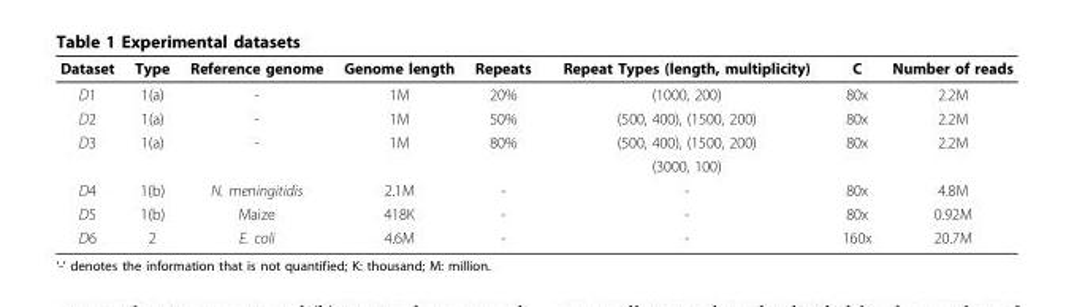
<table><thead><tr><td>Dataset</td><td>Type</td><td>Reference genome</td><td>Genome length</td><td>Repeats</td><td>Repeat Types (length, multiplicity)</td><td>C</td><td>Number of reads</td></tr></thead><tbody><tr><td>D1</td><td>1(a)</td><td>-</td><td>1M</td><td>20%</td><td>(1000, 200)</td><td>80x</td><td>2.2M</td></tr><tr><td>D2</td><td>1(a)</td><td>-</td><td>1M</td><td>50%</td><td>(500, 400), (1500, 200)</td><td>80x</td><td>2.2M</td></tr><tr><td rowspan="2">D3</td><td>1(a)</td><td>-</td><td>1M</td><td>80%</td><td>(500, 400), (1500, 200)</td><td>80x</td><td>2.2M</td></tr><tr><td></td><td></td><td></td><td></td><td>(3000, 100)</td><td></td><td></td></tr><tr><td>D4</td><td>1(b)</td><td>N. meningitidis</td><td>2.1M</td><td>-</td><td>-</td><td>80x</td><td>4.8M</td></tr><tr><td>D5</td><td>1(b)</td><td>Maize</td><td>418K</td><td>-</td><td>-</td><td>80x</td><td>0.92M</td></tr><tr><td>D6</td><td>2</td><td>E. coli</td><td>4.6M</td><td>-</td><td>-</td><td>160x</td><td>20.7M</td></tr></tbody></table>